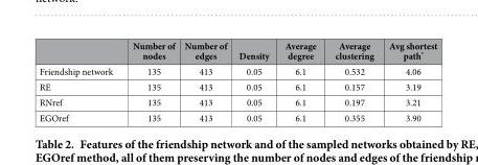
<table><thead><tr><td></td><td>Number of nodes</td><td>Number of edges</td><td>Density</td><td>Average degree</td><td>Average clustering</td><td>Avg shortest path*</td></tr></thead><tbody><tr><td>Friendship network</td><td>135</td><td>413</td><td>0.05</td><td>6.1</td><td>0.532</td><td>4.06</td></tr><tr><td>RE</td><td>135</td><td>413</td><td>0.05</td><td>6.1</td><td>0.157</td><td>3.19</td></tr><tr><td>RNref</td><td>135</td><td>413</td><td>0.05</td><td>6.1</td><td>0.197</td><td>3.21</td></tr><tr><td>EGOref</td><td>135</td><td>413</td><td>0.05</td><td>6.1</td><td>0.355</td><td>3.90</td></tr></tbody></table>